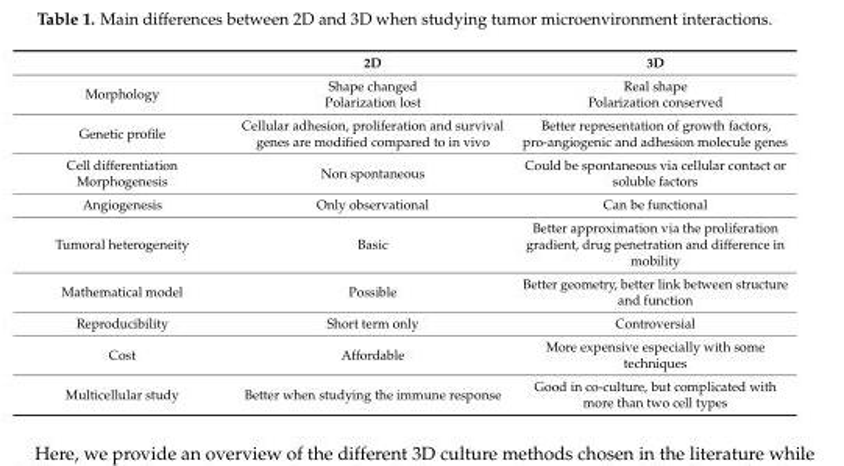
<table><thead><tr><td></td><td>2D</td><td>3D</td></tr></thead><tbody><tr><td>Morphology</td><td>Shape changed Polarization lost</td><td>Real shape Polarization conserved</td></tr><tr><td>Genetic profile</td><td>Cellular adhesion, proliferation and survival genes are modified compared to in vivo</td><td>Better representation of growth factors, pro-angiogenic and adhesion molecule genes</td></tr><tr><td>Cell differentiation Morphogenesis</td><td>Non spontaneous</td><td>Could be spontaneous via cellular contact or soluble factors</td></tr><tr><td>Angiogenesis</td><td>Only observational</td><td>Can be functional</td></tr><tr><td>Tumoral heterogeneity</td><td>Basic</td><td>Better approximation via the proliferation gradient, drug penetration and difference in mobility</td></tr><tr><td>Mathematical model</td><td>Possible</td><td>Better geometry, better link between structure and function</td></tr><tr><td>Reproducibility</td><td>Short term only</td><td>Controversial</td></tr><tr><td>Cost</td><td>Affordable</td><td>More expensive especially with some techniques</td></tr><tr><td>Multicellular study</td><td>Better when studying the immune response</td><td>Good in co-culture, but complicated with more than two cell types</td></tr></tbody></table>